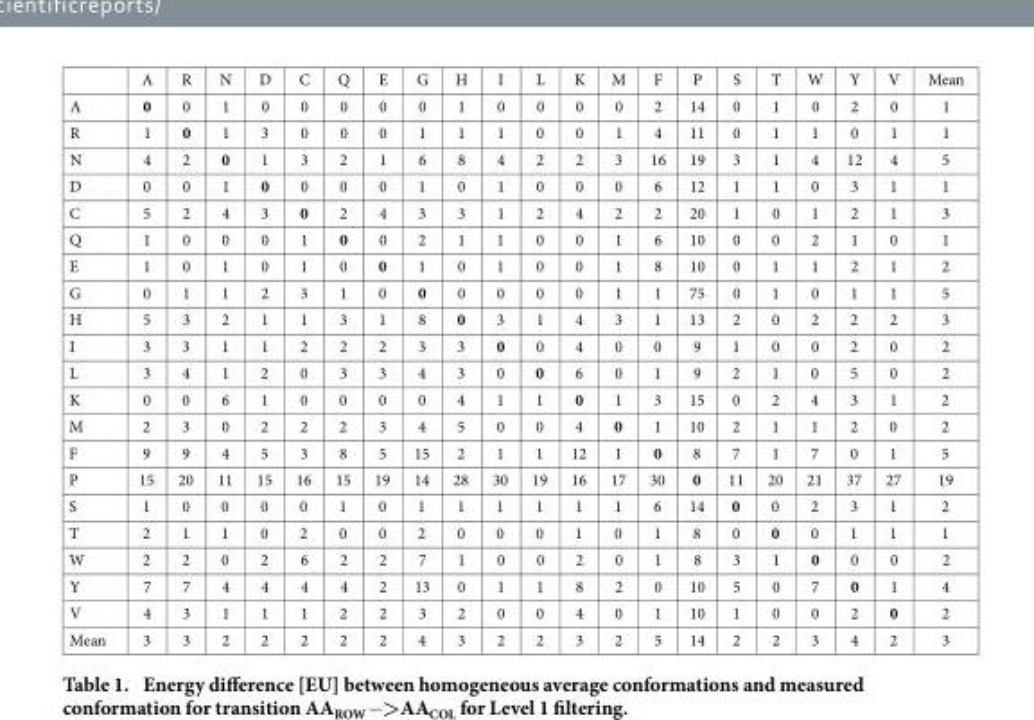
<table><thead><tr><td></td><td>A</td><td>R</td><td>N</td><td>D</td><td>C</td><td>Q</td><td>E</td><td>G</td><td>H</td><td>I</td><td>L</td><td>K</td><td>M</td><td>F</td><td>P</td><td>S</td><td>T</td><td>W</td><td>Y</td><td>V</td><td>Mean</td></tr></thead><tbody><tr><td>A</td><td>0</td><td>0</td><td>1</td><td>0</td><td>0</td><td>0</td><td>0</td><td>0</td><td>1</td><td>0</td><td>0</td><td>0</td><td>0</td><td>2</td><td>14</td><td>0</td><td>1</td><td>0</td><td>2</td><td>0</td><td>1</td></tr><tr><td>R</td><td>1</td><td>0</td><td>1</td><td>3</td><td>0</td><td>0</td><td>0</td><td>1</td><td>1</td><td>1</td><td>0</td><td>0</td><td>1</td><td>4</td><td>11</td><td>0</td><td>1</td><td>1</td><td>0</td><td>1</td><td>1</td></tr><tr><td>N</td><td>4</td><td>2</td><td>0</td><td>1</td><td>3</td><td>2</td><td>1</td><td>6</td><td>8</td><td>4</td><td>2</td><td>2</td><td>3</td><td>16</td><td>19</td><td>3</td><td>1</td><td>4</td><td>12</td><td>4</td><td>5</td></tr><tr><td>D</td><td>0</td><td>0</td><td>1</td><td>0</td><td>0</td><td>0</td><td>0</td><td>1</td><td>0</td><td>1</td><td>0</td><td>0</td><td>0</td><td>6</td><td>12</td><td>1</td><td>1</td><td>0</td><td>3</td><td>1</td><td>1</td></tr><tr><td>C</td><td>5</td><td>2</td><td>4</td><td>3</td><td>0</td><td>2</td><td>4</td><td>3</td><td>3</td><td>1</td><td>2</td><td>4</td><td>2</td><td>2</td><td>20</td><td>1</td><td>0</td><td>1</td><td>2</td><td>1</td><td>3</td></tr><tr><td>Q</td><td>1</td><td>0</td><td>0</td><td>0</td><td>1</td><td>0</td><td>0</td><td>2</td><td>1</td><td>1</td><td>0</td><td>0</td><td>1</td><td>6</td><td>10</td><td>0</td><td>0</td><td>2</td><td>1</td><td>0</td><td>1</td></tr><tr><td>E</td><td>1</td><td>0</td><td>1</td><td>0</td><td>1</td><td>0</td><td>0</td><td>1</td><td>0</td><td>1</td><td>0</td><td>0</td><td>1</td><td>8</td><td>10</td><td>0</td><td>1</td><td>1</td><td>2</td><td>1</td><td>2</td></tr><tr><td>G</td><td>0</td><td>1</td><td>1</td><td>2</td><td>3</td><td>1</td><td>0</td><td>0</td><td>0</td><td>0</td><td>0</td><td>0</td><td>1</td><td>1</td><td>75</td><td>0</td><td>1</td><td>0</td><td>1</td><td>1</td><td>5</td></tr><tr><td>H</td><td>5</td><td>3</td><td>2</td><td>1</td><td>1</td><td>3</td><td>1</td><td>8</td><td>0</td><td>3</td><td>1</td><td>4</td><td>3</td><td>1</td><td>13</td><td>2</td><td>0</td><td>2</td><td>2</td><td>2</td><td>3</td></tr><tr><td>I</td><td>3</td><td>3</td><td>1</td><td>1</td><td>2</td><td>2</td><td>2</td><td>3</td><td>3</td><td>0</td><td>0</td><td>4</td><td>0</td><td>0</td><td>9</td><td>1</td><td>0</td><td>0</td><td>2</td><td>0</td><td>2</td></tr><tr><td>L</td><td>3</td><td>4</td><td>1</td><td>2</td><td>0</td><td>3</td><td>3</td><td>4</td><td>3</td><td>0</td><td>0</td><td>6</td><td>0</td><td>1</td><td>9</td><td>2</td><td>1</td><td>0</td><td>5</td><td>0</td><td>2</td></tr><tr><td>K</td><td>0</td><td>0</td><td>6</td><td>1</td><td>0</td><td>0</td><td>0</td><td>0</td><td>4</td><td>1</td><td>1</td><td>0</td><td>1</td><td>3</td><td>15</td><td>0</td><td>2</td><td>4</td><td>3</td><td>1</td><td>2</td></tr><tr><td>M</td><td>2</td><td>3</td><td>0</td><td>2</td><td>2</td><td>2</td><td>3</td><td>4</td><td>5</td><td>0</td><td>0</td><td>4</td><td>0</td><td>1</td><td>10</td><td>2</td><td>1</td><td>1</td><td>2</td><td>0</td><td>2</td></tr><tr><td>F</td><td>9</td><td>9</td><td>4</td><td>5</td><td>3</td><td>8</td><td>5</td><td>15</td><td>2</td><td>1</td><td>1</td><td>12</td><td>1</td><td>0</td><td>8</td><td>7</td><td>1</td><td>7</td><td>0</td><td>1</td><td>5</td></tr><tr><td>P</td><td>15</td><td>20</td><td>11</td><td>15</td><td>16</td><td>15</td><td>19</td><td>14</td><td>28</td><td>30</td><td>19</td><td>16</td><td>17</td><td>30</td><td>0</td><td>11</td><td>20</td><td>21</td><td>37</td><td>27</td><td>19</td></tr><tr><td>S</td><td>1</td><td>0</td><td>0</td><td>0</td><td>0</td><td>1</td><td>0</td><td>1</td><td>1</td><td>1</td><td>1</td><td>1</td><td>1</td><td>6</td><td>14</td><td>0</td><td>0</td><td>2</td><td>3</td><td>1</td><td>2</td></tr><tr><td>T</td><td>2</td><td>1</td><td>1</td><td>0</td><td>2</td><td>0</td><td>0</td><td>2</td><td>0</td><td>0</td><td>0</td><td>1</td><td>0</td><td>1</td><td>8</td><td>0</td><td>0</td><td>0</td><td>1</td><td>1</td><td>1</td></tr><tr><td>W</td><td>2</td><td>2</td><td>0</td><td>2</td><td>6</td><td>2</td><td>2</td><td>7</td><td>1</td><td>0</td><td>0</td><td>2</td><td>0</td><td>1</td><td>8</td><td>3</td><td>1</td><td>0</td><td>0</td><td>0</td><td>2</td></tr><tr><td>Y</td><td>7</td><td>7</td><td>4</td><td>4</td><td>4</td><td>4</td><td>2</td><td>13</td><td>0</td><td>1</td><td>1</td><td>8</td><td>2</td><td>0</td><td>10</td><td>5</td><td>0</td><td>7</td><td>0</td><td>1</td><td>4</td></tr><tr><td>V</td><td>4</td><td>3</td><td>1</td><td>1</td><td>1</td><td>2</td><td>2</td><td>3</td><td>2</td><td>0</td><td>0</td><td>4</td><td>0</td><td>1</td><td>10</td><td>1</td><td>0</td><td>0</td><td>2</td><td>0</td><td>2</td></tr><tr><td>Mean</td><td>3</td><td>3</td><td>2</td><td>2</td><td>2</td><td>2</td><td>2</td><td>4</td><td>3</td><td>2</td><td>2</td><td>3</td><td>2</td><td>5</td><td>14</td><td>2</td><td>2</td><td>3</td><td>4</td><td>2</td><td>3</td></tr></tbody></table>